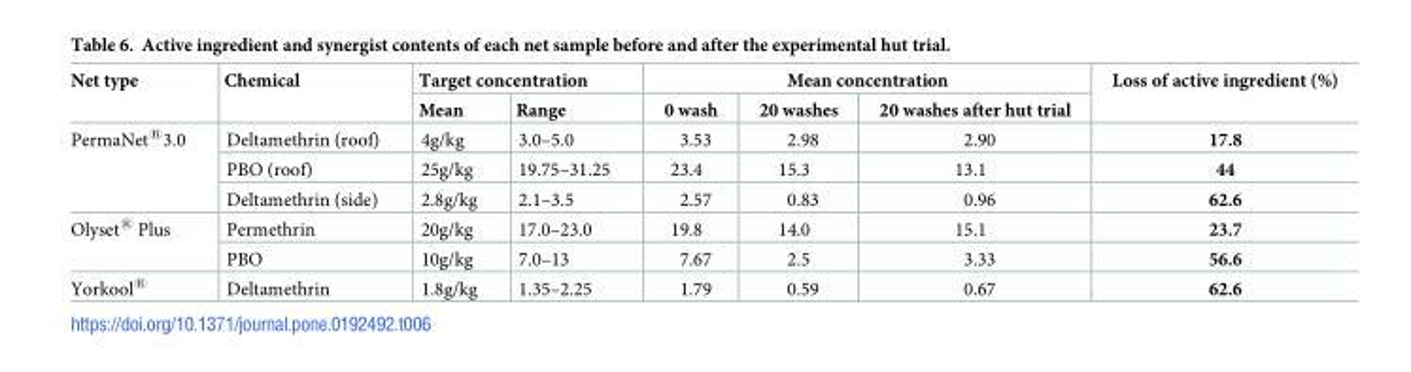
<table><thead><tr><td rowspan="2">Net type</td><td rowspan="2">Chemical</td><td colspan="2">Target concentration</td><td colspan="3">Mean concentration</td><td rowspan="2">Loss of active ingredient (%)</td></tr><tr><td>Mean</td><td>Range</td><td>0 wash</td><td>20 washes</td><td>20 washes after hut trial</td></tr></thead><tbody><tr><td rowspan="3">PermaNet<sup>®</sup>3.0</td><td>Deltamethrin (roof)</td><td>4g/kg</td><td>3.0–5.0</td><td>3.53</td><td>2.98</td><td>2.90</td><td>17.8</td></tr><tr><td>PBO (roof)</td><td>25g/kg</td><td>19.75–31.25</td><td>23.4</td><td>15.3</td><td>13.1</td><td>44</td></tr><tr><td>Deltamethrin (side)</td><td>2.8g/kg</td><td>2.1–3.5</td><td>2.57</td><td>0.83</td><td>0.96</td><td>62.6</td></tr><tr><td rowspan="2">Olyset<sup>®</sup> Plus</td><td>Permethrin</td><td>20g/kg</td><td>17.0–23.0</td><td>19.8</td><td>14.0</td><td>15.1</td><td>23.7</td></tr><tr><td>PBO</td><td>10g/kg</td><td>7.0–13</td><td>7.67</td><td>2.5</td><td>3.33</td><td>56.6</td></tr><tr><td>Yorkool<sup>®</sup></td><td>Deltamethrin</td><td>1.8g/kg</td><td>1.35–2.25</td><td>1.79</td><td>0.59</td><td>0.67</td><td>62.6</td></tr></tbody></table>